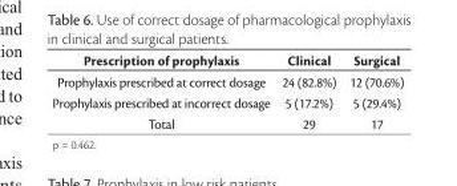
<table><thead><tr><td>Prescription of prophylaxis</td><td>Clinical</td><td>Surgical</td></tr></thead><tbody><tr><td>Prophylaxis prescribed at correct dosage</td><td>24 (82.8%)</td><td>12 (70.6%)</td></tr><tr><td>Prophylaxis prescribed at incorrect dosage</td><td>5 (17.2%)</td><td>5 (29.4%)</td></tr><tr><td>Total</td><td>29</td><td>17</td></tr></tbody></table>